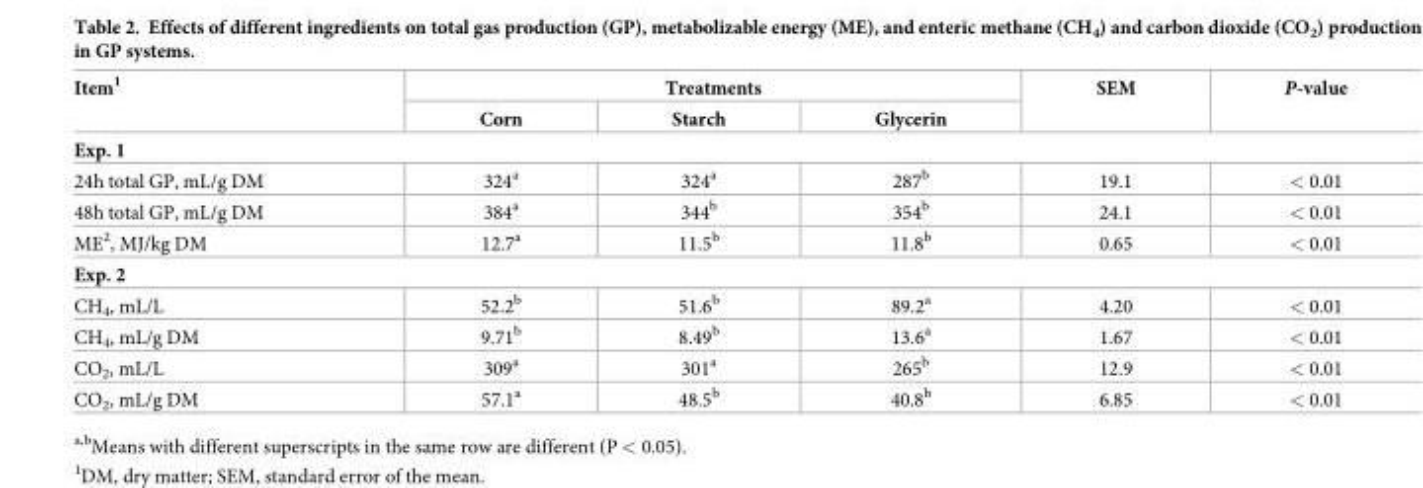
<table><thead><tr><td rowspan="2">Item<sup>1</sup></td><td colspan="3">Treatments</td><td rowspan="2">SEM</td><td rowspan="2">P-value</td></tr><tr><td>Corn</td><td>Starch</td><td>Glycerin</td></tr></thead><tbody><tr><td colspan="6">Exp. 1</td></tr><tr><td>24h total GP, mL/g DM</td><td>324<sup>a</sup></td><td>324<sup>a</sup></td><td>287<sup>b</sup></td><td>19.1</td><td>&lt; 0.01</td></tr><tr><td>48h total GP, mL/g DM</td><td>384<sup>a</sup></td><td>344<sup>b</sup></td><td>354<sup>b</sup></td><td>24.1</td><td>&lt; 0.01</td></tr><tr><td>ME<sup>2</sup>, MJ/kg DM</td><td>12.7<sup>a</sup></td><td>11.5<sup>b</sup></td><td>11.8<sup>b</sup></td><td>0.65</td><td>&lt; 0.01</td></tr><tr><td colspan="6">Exp. 2</td></tr><tr><td>CH<sub>4</sub>, mL/L</td><td>52.2<sup>b</sup></td><td>51.6<sup>b</sup></td><td>89.2<sup>a</sup></td><td>4.20</td><td>&lt; 0.01</td></tr><tr><td>CH<sub>4</sub>, mL/g DM</td><td>9.71<sup>b</sup></td><td>8.49<sup>b</sup></td><td>13.6<sup>a</sup></td><td>1.67</td><td>&lt; 0.01</td></tr><tr><td>CO<sub>2</sub>, mL/L</td><td>309<sup>a</sup></td><td>301<sup>a</sup></td><td>265<sup>b</sup></td><td>12.9</td><td>&lt; 0.01</td></tr><tr><td>CO<sub>2</sub>, mL/g DM</td><td>57.1<sup>a</sup></td><td>48.5<sup>b</sup></td><td>40.8<sup>b</sup></td><td>6.85</td><td>&lt; 0.01</td></tr></tbody></table>